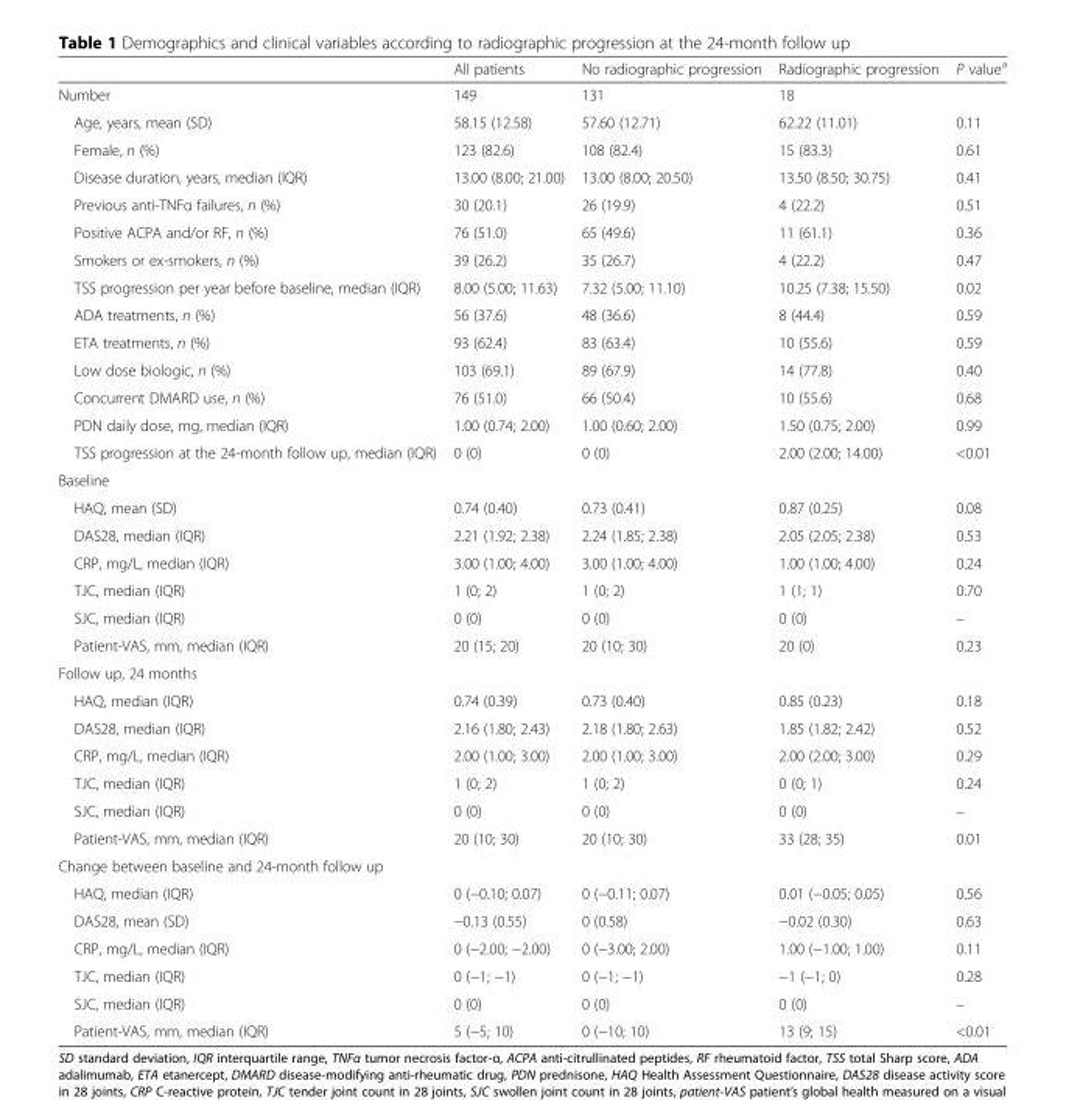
<table><thead><tr><td></td><td>All patients</td><td>No radiographic progression</td><td>Radiographic progression</td><td>P value<sup>a</sup></td></tr></thead><tbody><tr><td>Number</td><td>149</td><td>131</td><td>18</td><td></td></tr><tr><td>Age, years, mean (SD)</td><td>58.15 (12.58)</td><td>57.60 (12.71)</td><td>62.22 (11.01)</td><td>0.11</td></tr><tr><td>Female, n (%)</td><td>123 (82.6)</td><td>108 (82.4)</td><td>15 (83.3)</td><td>0.61</td></tr><tr><td>Disease duration, years, median (IQR)</td><td>13.00 (8.00; 21.00)</td><td>13.00 (8.00; 20.50)</td><td>13.50 (8.50; 30.75)</td><td>0.41</td></tr><tr><td>Previous anti-TNFα failures, n (%)</td><td>30 (20.1)</td><td>26 (19.9)</td><td>4 (22.2)</td><td>0.51</td></tr><tr><td>Positive ACPA and/or RF, n (%)</td><td>76 (51.0)</td><td>65 (49.6)</td><td>11 (61.1)</td><td>0.36</td></tr><tr><td>Smokers or ex-smokers, n (%)</td><td>39 (26.2)</td><td>35 (26.7)</td><td>4 (22.2)</td><td>0.47</td></tr><tr><td>TSS progression per year before baseline, median (IQR)</td><td>8.00 (5.00; 11.63)</td><td>7.32 (5.00; 11.10)</td><td>10.25 (7.38; 15.50)</td><td>0.02</td></tr><tr><td>ADA treatments, n (%)</td><td>56 (37.6)</td><td>48 (36.6)</td><td>8 (44.4)</td><td>0.59</td></tr><tr><td>ETA treatments, n (%)</td><td>93 (62.4)</td><td>83 (63.4)</td><td>10 (55.6)</td><td>0.59</td></tr><tr><td>Low dose biologic, n (%)</td><td>103 (69.1)</td><td>89 (67.9)</td><td>14 (77.8)</td><td>0.40</td></tr><tr><td>Concurrent DMARD use, n (%)</td><td>76 (51.0)</td><td>66 (50.4)</td><td>10 (55.6)</td><td>0.68</td></tr><tr><td>PDN daily dose, mg, median (IQR)</td><td>1.00 (0.74; 2.00)</td><td>1.00 (0.60; 2.00)</td><td>1.50 (0.75; 2.00)</td><td>0.99</td></tr><tr><td>TSS progression at the 24-month follow up, median (IQR)</td><td>0 (0)</td><td>0 (0)</td><td>2.00 (2.00; 14.00)</td><td>&lt;0.01</td></tr><tr><td colspan="5">Baseline</td></tr><tr><td>HAQ, mean (SD)</td><td>0.74 (0.40)</td><td>0.73 (0.41)</td><td>0.87 (0.25)</td><td>0.08</td></tr><tr><td>DAS28, median (IQR)</td><td>2.21 (1.92; 2.38)</td><td>2.24 (1.85; 2.38)</td><td>2.05 (2.05; 2.38)</td><td>0.53</td></tr><tr><td>CRP, mg/L, median (IQR)</td><td>3.00 (1.00; 4.00)</td><td>3.00 (1.00; 4.00)</td><td>1.00 (1.00; 4.00)</td><td>0.24</td></tr><tr><td>TJC, median (IQR)</td><td>1 (0; 2)</td><td>1 (0; 2)</td><td>1 (1; 1)</td><td>0.70</td></tr><tr><td>SJC, median (IQR)</td><td>0 (0)</td><td>0 (0)</td><td>0 (0)</td><td>–</td></tr><tr><td>Patient-VAS, mm, median (IQR)</td><td>20 (15; 20)</td><td>20 (10; 30)</td><td>20 (0)</td><td>0.23</td></tr><tr><td colspan="5">Follow up, 24 months</td></tr><tr><td>HAQ, median (IQR)</td><td>0.74 (0.39)</td><td>0.73 (0.40)</td><td>0.85 (0.23)</td><td>0.18</td></tr><tr><td>DAS28, median (IQR)</td><td>2.16 (1.80; 2.43)</td><td>2.18 (1.80; 2.63)</td><td>1.85 (1.82; 2.42)</td><td>0.52</td></tr><tr><td>CRP, mg/L, median (IQR)</td><td>2.00 (1.00; 3.00)</td><td>2.00 (1.00; 3.00)</td><td>2.00 (2.00; 3.00)</td><td>0.29</td></tr><tr><td>TJC, median (IQR)</td><td>1 (0; 2)</td><td>1 (0; 2)</td><td>0 (0; 1)</td><td>0.24</td></tr><tr><td>SJC, median (IQR)</td><td>0 (0)</td><td>0 (0)</td><td>0 (0)</td><td>–</td></tr><tr><td>Patient-VAS, mm, median (IQR)</td><td>20 (10; 30)</td><td>20 (10; 30)</td><td>33 (28; 35)</td><td>0.01</td></tr><tr><td colspan="5">Change between baseline and 24-month follow up</td></tr><tr><td>HAQ, median (IQR)</td><td>0 (−0.10; 0.07)</td><td>0 (−0.11; 0.07)</td><td>0.01 (−0.05; 0.05)</td><td>0.56</td></tr><tr><td>DAS28, mean (SD)</td><td>−0.13 (0.55)</td><td>0 (0.58)</td><td>−0.02 (0.30)</td><td>0.63</td></tr><tr><td>CRP, mg/L, median (IQR)</td><td>0 (−2.00; −2.00)</td><td>0 (−3.00; 2.00)</td><td>1.00 (−1.00; 1.00)</td><td>0.11</td></tr><tr><td>TJC, median (IQR)</td><td>0 (−1; −1)</td><td>0 (−1; −1)</td><td>−1 (−1; 0)</td><td>0.28</td></tr><tr><td>SJC, median (IQR)</td><td>0 (0)</td><td>0 (0)</td><td>0 (0)</td><td>–</td></tr><tr><td>Patient-VAS, mm, median (IQR)</td><td>5 (−5; 10)</td><td>0 (−10; 10)</td><td>13 (9; 15)</td><td>&lt;0.01</td></tr></tbody></table>